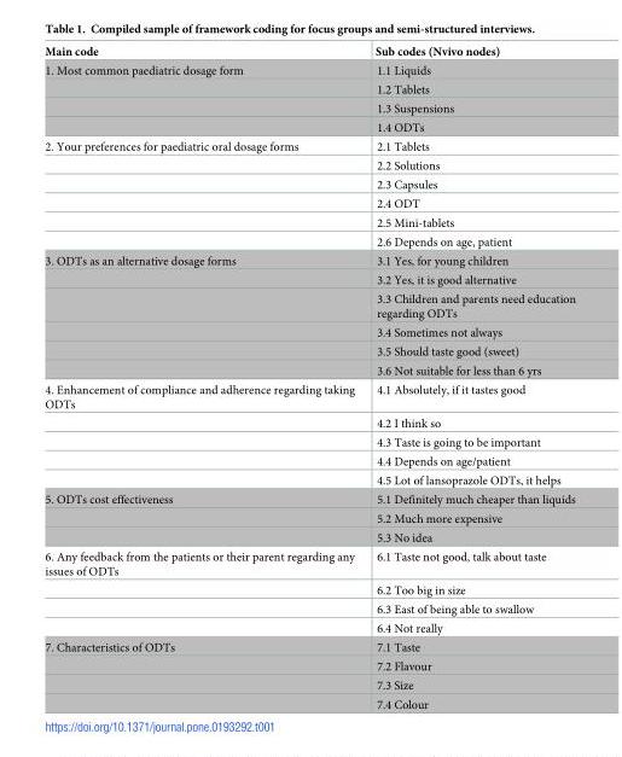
<table><thead><tr><td>Main code</td><td>Sub codes (Nvivo nodes)</td></tr></thead><tbody><tr><td rowspan="4">1. Most common paediatric dosage form</td><td>1.1 Liquids</td></tr><tr><td>1.2 Tablets</td></tr><tr><td>1.3 Suspensions</td></tr><tr><td>1.4 ODTs</td></tr><tr><td rowspan="6">2. Your preferences for paediatric oral dosage forms</td><td>2.1 Tablets</td></tr><tr><td>2.2 Solutions</td></tr><tr><td>2.3 Capsules</td></tr><tr><td>2.4 ODT</td></tr><tr><td>2.5 Mini-tablets</td></tr><tr><td>2.6 Depends on age, patient</td></tr><tr><td rowspan="6">3. ODTs as an alternative dosage forms</td><td>3.1 Yes, for young children</td></tr><tr><td>3.2 Yes, it is good alternative</td></tr><tr><td>3.3 Children and parents need education regarding ODTs</td></tr><tr><td>3.4 Sometimes not always</td></tr><tr><td>3.5 Should taste good (sweet)</td></tr><tr><td>3.6 Not suitable for less than 6 yrs</td></tr><tr><td rowspan="5">4. Enhancement of compliance and adherence regarding taking ODTs</td><td>4.1 Absolutely, if it tastes good</td></tr><tr><td>4.2 I think so</td></tr><tr><td>4.3 Taste is going to be important</td></tr><tr><td>4.4 Depends on age/patient</td></tr><tr><td>4.5 Lot of lansoprazole ODTs, it helps</td></tr><tr><td rowspan="3">5. ODTs cost effectiveness</td><td>5.1 Definitely much cheaper than liquids</td></tr><tr><td>5.2 Much more expensive</td></tr><tr><td>5.3 No idea</td></tr><tr><td rowspan="4">6. Any feedback from the patients or their parent regarding any issues of ODTs</td><td>6.1 Taste not good, talk about taste</td></tr><tr><td>6.2 Too big in size</td></tr><tr><td>6.3 East of being able to swallow</td></tr><tr><td>6.4 Not really</td></tr><tr><td rowspan="4">7. Characteristics of ODTs</td><td>7.1 Taste</td></tr><tr><td>7.2 Flavour</td></tr><tr><td>7.3 Size</td></tr><tr><td>7.4 Colour</td></tr></tbody></table>